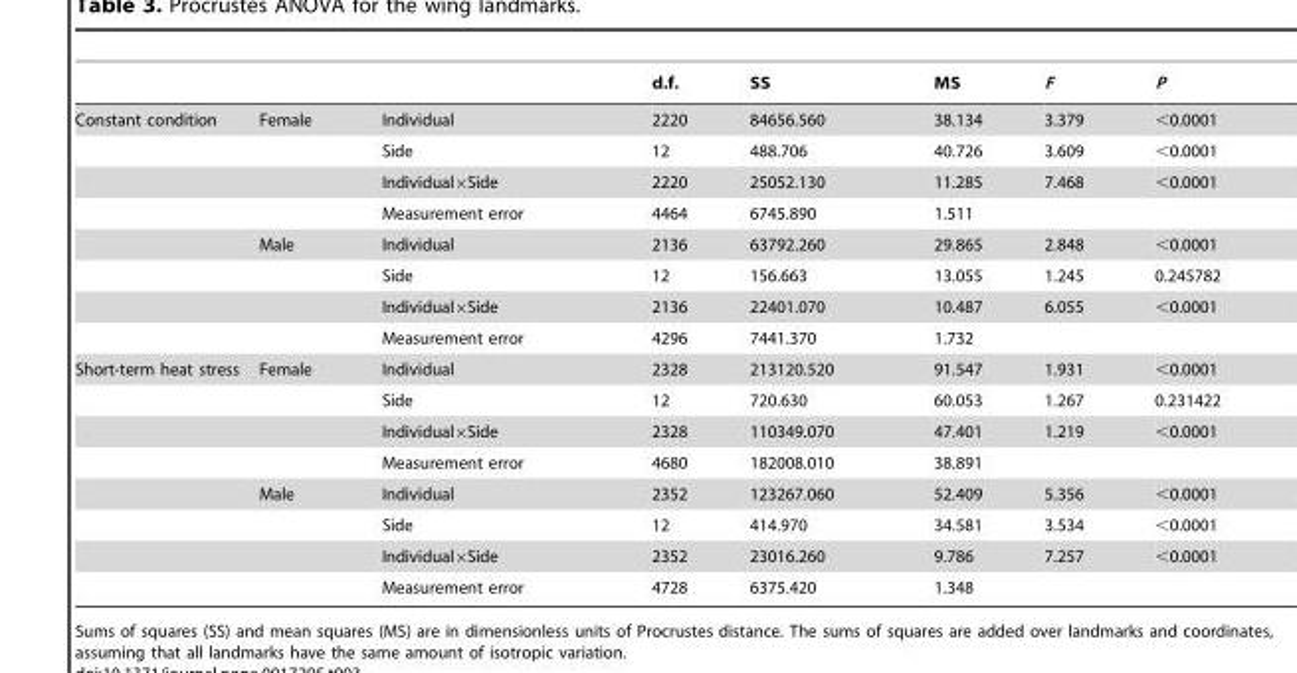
<table><thead><tr><td></td><td></td><td></td><td>d.f.</td><td>SS</td><td>MS</td><td>F</td><td>P</td></tr></thead><tbody><tr><td rowspan="8">Constant condition</td><td>Female</td><td>Individual</td><td>2220</td><td>84656.560</td><td>38.134</td><td>3.379</td><td>&lt;0.0001</td></tr><tr><td></td><td>Side</td><td>12</td><td>488.706</td><td>40.726</td><td>3.609</td><td>&lt;0.0001</td></tr><tr><td></td><td>Individual×Side</td><td>2220</td><td>25052.130</td><td>11.285</td><td>7.468</td><td>&lt;0.0001</td></tr><tr><td></td><td>Measurement error</td><td>4464</td><td>6745.890</td><td>1.511</td><td></td><td></td></tr><tr><td>Male</td><td>Individual</td><td>2136</td><td>63792.260</td><td>29.865</td><td>2.848</td><td>&lt;0.0001</td></tr><tr><td></td><td>Side</td><td>12</td><td>156.663</td><td>13.055</td><td>1.245</td><td>0.245782</td></tr><tr><td></td><td>Individual×Side</td><td>2136</td><td>22401.070</td><td>10.487</td><td>6.055</td><td>&lt;0.0001</td></tr><tr><td></td><td>Measurement error</td><td>4296</td><td>7441.370</td><td>1.732</td><td></td><td></td></tr><tr><td rowspan="8">Short-term heat stress</td><td>Female</td><td>Individual</td><td>2328</td><td>213120.520</td><td>91.547</td><td>1.931</td><td>&lt;0.0001</td></tr><tr><td></td><td>Side</td><td>12</td><td>720.630</td><td>60.053</td><td>1.267</td><td>0.231422</td></tr><tr><td></td><td>Individual×Side</td><td>2328</td><td>110349.070</td><td>47.401</td><td>1.219</td><td>&lt;0.0001</td></tr><tr><td></td><td>Measurement error</td><td>4680</td><td>182008.010</td><td>38.891</td><td></td><td></td></tr><tr><td>Male</td><td>Individual</td><td>2352</td><td>123267.060</td><td>52.409</td><td>5.356</td><td>&lt;0.0001</td></tr><tr><td></td><td>Side</td><td>12</td><td>414.970</td><td>34.581</td><td>3.534</td><td>&lt;0.0001</td></tr><tr><td></td><td>Individual×Side</td><td>2352</td><td>23016.260</td><td>9.786</td><td>7.257</td><td>&lt;0.0001</td></tr><tr><td></td><td>Measurement error</td><td>4728</td><td>6375.420</td><td>1.348</td><td></td><td></td></tr></tbody></table>